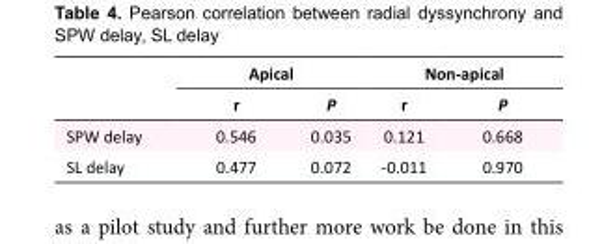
<table><thead><tr><td rowspan="2"></td><td colspan="2">Apical</td><td colspan="2">Non-apical</td></tr><tr><td>r</td><td>P</td><td>r</td><td>P</td></tr></thead><tbody><tr><td>SPW delay</td><td>0.546</td><td>0.035</td><td>0.121</td><td>0.668</td></tr><tr><td>SL delay</td><td>0.477</td><td>0.072</td><td>-0.011</td><td>0.970</td></tr></tbody></table>